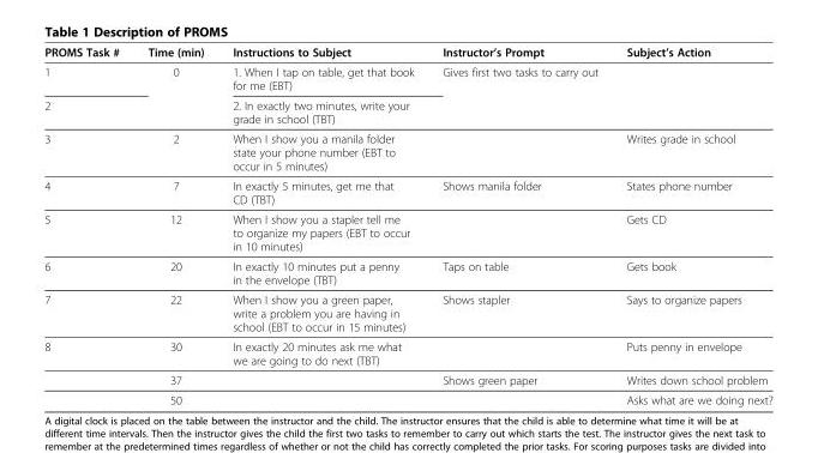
<table><thead><tr><td>PROMS Task #</td><td>Time (min)</td><td>Instructions to Subject</td><td>Instructor’s Prompt</td><td>Subject’s Action</td></tr></thead><tbody><tr><td>1</td><td rowspan="2">0</td><td>1. When I tap on table, get that book for me (EBT)</td><td rowspan="2">Gives first two tasks to carry out</td><td rowspan="2"></td></tr><tr><td>2</td><td>2. In exactly two minutes, write your grade in school (TBT)</td></tr><tr><td>3</td><td>2</td><td>When I show you a manila folder state your phone number (EBT to occur in 5 minutes)</td><td></td><td>Writes grade in school</td></tr><tr><td>4</td><td>7</td><td>In exactly 5 minutes, get me that CD (TBT)</td><td>Shows manila folder</td><td>States phone number</td></tr><tr><td>5</td><td>12</td><td>When I show you a stapler tell me to organize my papers (EBT to occur in 10 minutes)</td><td></td><td>Gets CD</td></tr><tr><td>6</td><td>20</td><td>In exactly 10 minutes put a penny in the envelope (TBT)</td><td>Taps on table</td><td>Gets book</td></tr><tr><td>7</td><td>22</td><td>When I show you a green paper, write a problem you are having in school (EBT to occur in 15 minutes)</td><td>Shows stapler</td><td>Says to organize papers</td></tr><tr><td rowspan="3">8</td><td>30</td><td>In exactly 20 minutes ask me what we are going to do next (TBT)</td><td></td><td>Puts penny in envelope</td></tr><tr><td>37</td><td></td><td>Shows green paper</td><td>Writes down school problem</td></tr><tr><td>50</td><td></td><td></td><td>Asks what are we doing next?</td></tr></tbody></table>